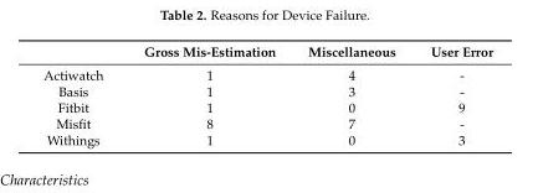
<table><thead><tr><td></td><td>Gross Mis-Estimation</td><td>Miscellaneous</td><td>User Error</td></tr></thead><tbody><tr><td>Actiwatch</td><td>1</td><td>4</td><td>-</td></tr><tr><td>Basis</td><td>1</td><td>3</td><td>-</td></tr><tr><td>Fitbit</td><td>1</td><td>0</td><td>9</td></tr><tr><td>Misfit</td><td>8</td><td>7</td><td>-</td></tr><tr><td>Withings</td><td>1</td><td>0</td><td>3</td></tr></tbody></table>